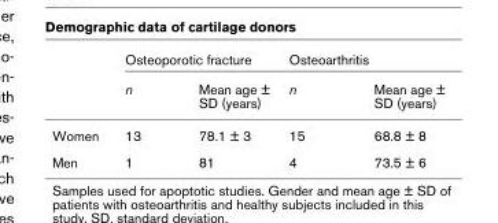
<table><thead><tr><td rowspan="2"></td><td colspan="2">Osteoporotic fracture</td><td colspan="2">Osteoarthritis</td></tr><tr><td>n</td><td>Mean age ± SD (years)</td><td>n</td><td>Mean age ± SD (years)</td></tr></thead><tbody><tr><td>Women</td><td>13</td><td>78.1 ± 3</td><td>15</td><td>68.8 ± 8</td></tr><tr><td>Men</td><td>1</td><td>81</td><td>4</td><td>73.5 ± 6</td></tr></tbody></table>